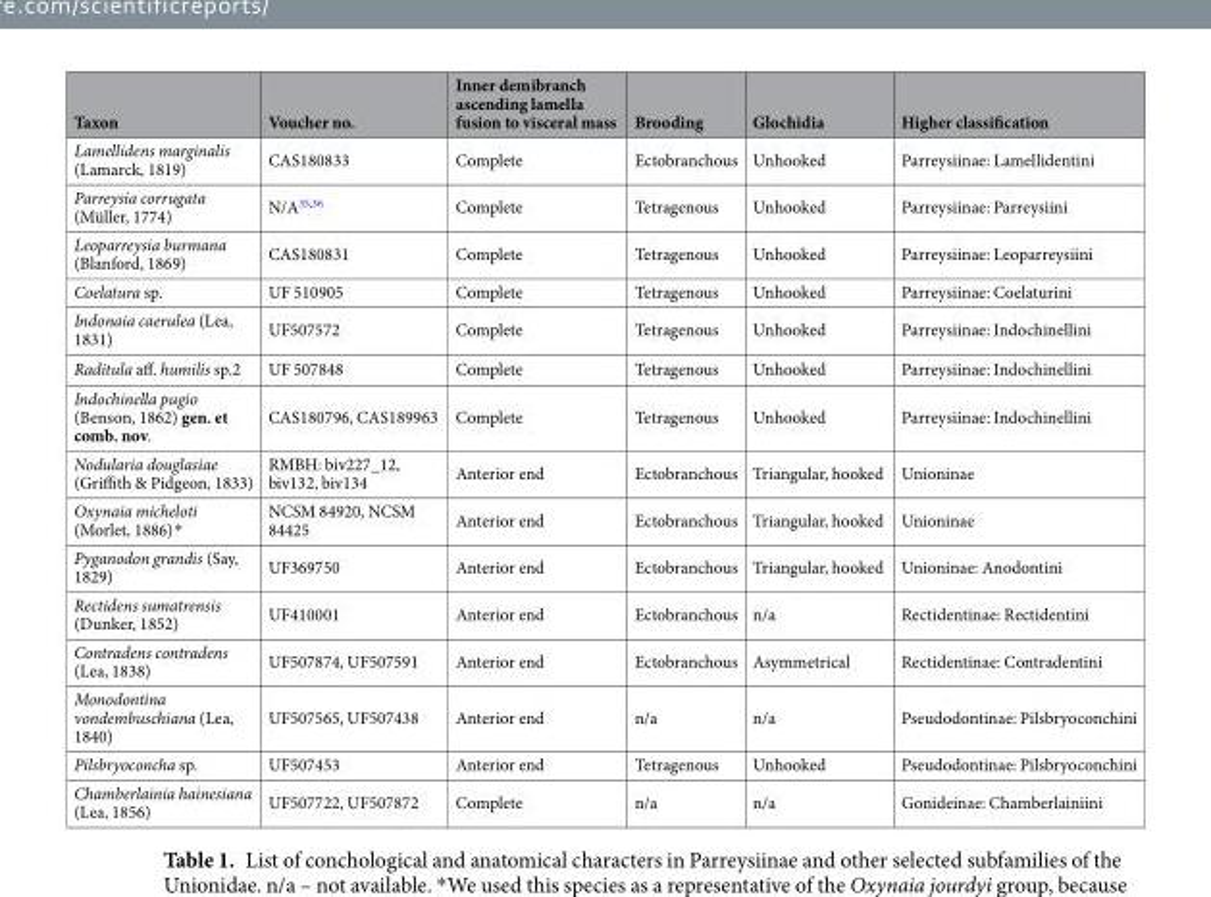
<table><thead><tr><td>Taxon</td><td>Voucher no.</td><td>Inner demibranch ascending lamella fusion to visceral mass</td><td>Brooding</td><td>Glochidia</td><td>Higher classification</td></tr></thead><tbody><tr><td>Lamellidens marginalis (Lamarck, 1819)</td><td>CAS180833</td><td>Complete</td><td>Ectobranchous</td><td>Unhooked</td><td>Parreysiinae: Lamellidentini</td></tr><tr><td>Parreysia corrugata (Müller, 1774)</td><td>N/A<sup>35,36</sup></td><td>Complete</td><td>Tetragenous</td><td>Unhooked</td><td>Parreysiinae: Parreysiini</td></tr><tr><td>Leoparreysia burmana (Blanford, 1869)</td><td>CAS180831</td><td>Complete</td><td>Tetragenous</td><td>Unhooked</td><td>Parreysiinae: Leoparreysiini</td></tr><tr><td>Coelatura sp.</td><td>UF 510905</td><td>Complete</td><td>Tetragenous</td><td>Unhooked</td><td>Parreysiinae: Coelaturini</td></tr><tr><td>Indonaia caerulea (Lea, 1831)</td><td>UF507572</td><td>Complete</td><td>Tetragenous</td><td>Unhooked</td><td>Parreysiinae: Indochinellini</td></tr><tr><td>Raditula aff. humilis sp.2</td><td>UF 507848</td><td>Complete</td><td>Tetragenous</td><td>Unhooked</td><td>Parreysiinae: Indochinellini</td></tr><tr><td>Indochinella pugio (Benson, 1862) gen. et comb. nov.</td><td>CAS180796, CAS189963</td><td>Complete</td><td>Tetragenous</td><td>Unhooked</td><td>Parreysiinae: Indochinellini</td></tr><tr><td>Nodularia douglasiae (Griffith &amp; Pidgeon, 1833)</td><td>RMBH: biv227_12, biv132, biv134</td><td>Anterior end</td><td>Ectobranchous</td><td>Triangular, hooked</td><td>Unioninae</td></tr><tr><td>Oxynaia micheloti (Morlet, 1886)*</td><td>NCSM 84920, NCSM 84425</td><td>Anterior end</td><td>Ectobranchous</td><td>Triangular, hooked</td><td>Unioninae</td></tr><tr><td>Pyganodon grandis (Say, 1829)</td><td>UF369750</td><td>Anterior end</td><td>Ectobranchous</td><td>Triangular, hooked</td><td>Unioninae: Anodontini</td></tr><tr><td>Rectidens sumatrensis (Dunker, 1852)</td><td>UF410001</td><td>Anterior end</td><td>Ectobranchous</td><td>n/a</td><td>Rectidentinae: Rectidentini</td></tr><tr><td>Contradens contradens (Lea, 1838)</td><td>UF507874, UF507591</td><td>Anterior end</td><td>Ectobranchous</td><td>Asymmetrical</td><td>Rectidentinae: Contradentini</td></tr><tr><td>Monodontina vondembuschiana (Lea, 1840)</td><td>UF507565, UF507438</td><td>Anterior end</td><td>n/a</td><td>n/a</td><td>Pseudodontinae: Pilsbryoconchini</td></tr><tr><td>Pilsbryoconcha sp.</td><td>UF507453</td><td>Anterior end</td><td>Tetragenous</td><td>Unhooked</td><td>Pseudodontinae: Pilsbryoconchini</td></tr><tr><td>Chamberlainia hainesiana (Lea, 1856)</td><td>UF507722, UF507872</td><td>Complete</td><td>n/a</td><td>n/a</td><td>Gonideinae: Chamberlainiini</td></tr></tbody></table>